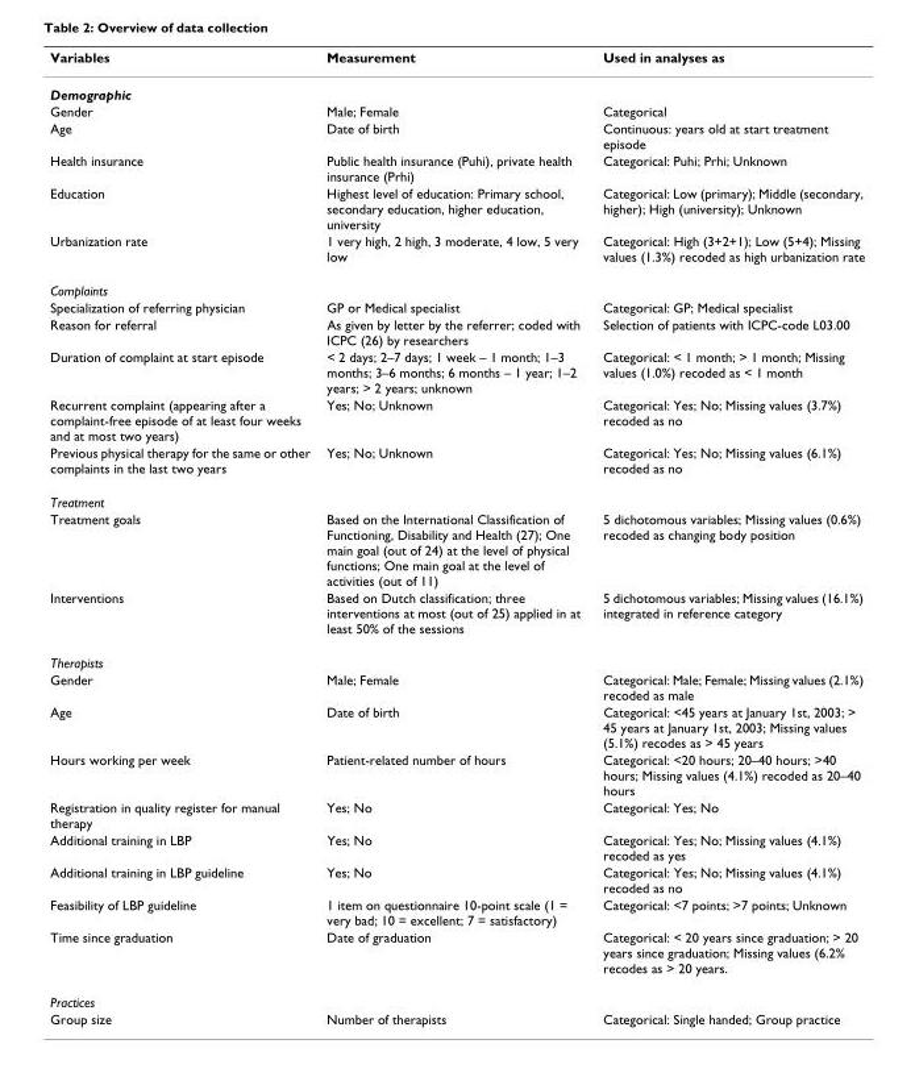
<table><thead><tr><td>Variables</td><td>Measurement</td><td>Used in analyses as</td></tr></thead><tbody><tr><td colspan="3">Demographic</td></tr><tr><td>Gender</td><td>Male; Female</td><td>Categorical</td></tr><tr><td>Age</td><td>Date of birth</td><td>Continuous: years old at start treatment episode</td></tr><tr><td>Health insurance</td><td>Public health insurance (Puhi), private health insurance (Prhi)</td><td>Categorical: Puhi; Prhi; Unknown</td></tr><tr><td>Education</td><td>Highest level of education: Primary school, secondary education, higher education, university</td><td>Categorical: Low (primary); Middle (secondary, higher); High (university); Unknown</td></tr><tr><td>Urbanization rate</td><td>1 very high, 2 high, 3 moderate, 4 low, 5 very low</td><td>Categorical: High (3+2+1); Low (5+4); Missing values (1.3%) recoded as high urbanization rate</td></tr><tr><td colspan="3">Complaints</td></tr><tr><td>Specialization of referring physician</td><td>GP or Medical specialist</td><td>Categorical: GP; Medical specialist</td></tr><tr><td>Reason for referral</td><td>As given by letter by the referrer; coded with ICPC (26) by researchers</td><td>Selection of patients with ICPC-code L03.00</td></tr><tr><td>Duration of complaint at start episode</td><td>&lt; 2 days; 2–7 days; 1 week – 1 month; 1–3 months; 3–6 months; 6 months – 1 year; 1–2 years; &gt; 2 years; unknown</td><td>Categorical: &lt; 1 month; &gt; 1 month; Missing values (1.0%) recoded as &lt; 1 month</td></tr><tr><td>Recurrent complaint (appearing after a complaint-free episode of at least four weeks and at most two years)</td><td>Yes; No; Unknown</td><td>Categorical: Yes; No; Missing values (3.7%) recoded as no</td></tr><tr><td>Previous physical therapy for the same or other complaints in the last two years</td><td>Yes; No; Unknown</td><td>Categorical: Yes; No; Missing values (6.1%) recoded as no</td></tr><tr><td colspan="3">Treatment</td></tr><tr><td>Treatment goals</td><td>Based on the International Classification of Functioning, Disability and Health (27); One main goal (out of 24) at the level of physical functions; One main goal at the level of activities (out of 11)</td><td>5 dichotomous variables; Missing values (0.6%) recoded as changing body position</td></tr><tr><td>Interventions</td><td>Based on Dutch classification; three interventions at most (out of 25) applied in at least 50% of the sessions</td><td>5 dichotomous variables; Missing values (16.1%) integrated in reference category</td></tr><tr><td colspan="3">Therapists</td></tr><tr><td>Gender</td><td>Male; Female</td><td>Categorical: Male; Female; Missing values (2.1%) recoded as male</td></tr><tr><td>Age</td><td>Date of birth</td><td>Categorical: &lt;45 years at January 1st, 2003; &gt; 45 years at January 1st, 2003; Missing values (5.1%) recodes as &gt; 45 years</td></tr><tr><td>Hours working per week</td><td>Patient-related number of hours</td><td>Categorical: &lt;20 hours; 20–40 hours; &gt;40 hours; Missing values (4.1%) recoded as 20–40 hours</td></tr><tr><td>Registration in quality register for manual therapy</td><td>Yes; No</td><td>Categorical: Yes; No</td></tr><tr><td>Additional training in LBP</td><td>Yes; No</td><td>Categorical: Yes; No; Missing values (4.1%) recoded as yes</td></tr><tr><td>Additional training in LBP guideline</td><td>Yes; No</td><td>Categorical: Yes; No; Missing values (4.1%) recoded as no</td></tr><tr><td>Feasibility of LBP guideline</td><td>1 item on questionnaire 10-point scale (1 = very bad; 10 = excellent; 7 = satisfactory)</td><td>Categorical: &lt;7 points; &gt;7 points; Unknown</td></tr><tr><td>Time since graduation</td><td>Date of graduation</td><td>Categorical: &lt; 20 years since graduation; &gt; 20 years since graduation; Missing values (6.2% recodes as &gt; 20 years.</td></tr><tr><td colspan="3">Practices</td></tr><tr><td>Group size</td><td>Number of therapists</td><td>Categorical: Single handed; Group practice</td></tr></tbody></table>